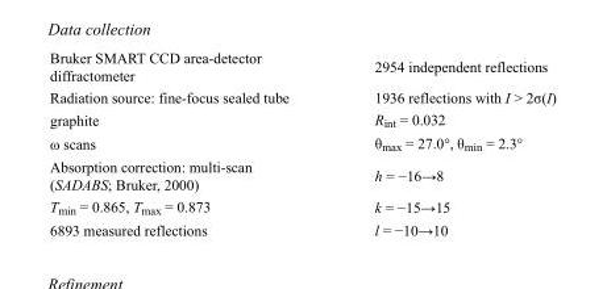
<table><tbody><tr><td>Bruker SMART CCD area-detector diffractometer</td><td>2954 independent reflections</td></tr><tr><td>Radiation source: fine-focus sealed tube</td><td>1936 reflections with I &gt; 2σ(I)</td></tr><tr><td>graphite</td><td>R<sub>int</sub> = 0.032</td></tr><tr><td>ω scans</td><td>θ<sub>max</sub> = 27.0°, θ<sub>min</sub> = 2.3°</td></tr><tr><td>Absorption correction: multi-scan (SADABS; Bruker, 2000)</td><td>h = −16→8</td></tr><tr><td>T<sub>min</sub> = 0.865, T<sub>max</sub> = 0.873</td><td>k = −15→15</td></tr><tr><td>6893 measured reflections</td><td>l = −10→10</td></tr></tbody></table>